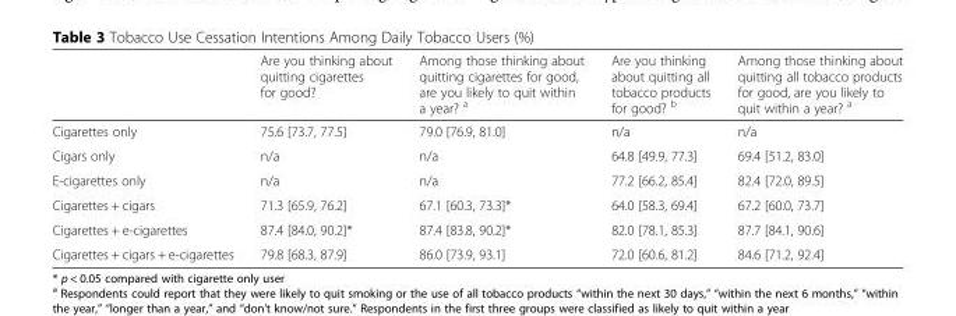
<table><thead><tr><td></td><td>Are you thinking about quitting cigarettes for good?</td><td>Among those thinking about quitting cigarettes for good, are you likely to quit within a year? <sup>a</sup></td><td>Are you thinking about quitting all tobacco products for good? <sup>b</sup></td><td>Among those thinking about quitting all tobacco products for good, are you likely to quit within a year? <sup>a</sup></td></tr></thead><tbody><tr><td>Cigarettes only</td><td>75.6 [73.7, 77.5]</td><td>79.0 [76.9, 81.0]</td><td>n/a</td><td>n/a</td></tr><tr><td>Cigars only</td><td>n/a</td><td>n/a</td><td>64.8 [49.9, 77.3]</td><td>69.4 [51.2, 83.0]</td></tr><tr><td>E-cigarettes only</td><td>n/a</td><td>n/a</td><td>77.2 [66.2, 85.4]</td><td>82.4 [72.0, 89.5]</td></tr><tr><td>Cigarettes + cigars</td><td>71.3 [65.9, 76.2]</td><td>67.1 [60.3, 73.3]*</td><td>64.0 [58.3, 69.4]</td><td>67.2 [60.0, 73.7]</td></tr><tr><td>Cigarettes + e-cigarettes</td><td>87.4 [84.0, 90.2]*</td><td>87.4 [83.8, 90.2]*</td><td>82.0 [78.1, 85.3]</td><td>87.7 [84.1, 90.6]</td></tr><tr><td>Cigarettes + cigars + e-cigarettes</td><td>79.8 [68.3, 87.9]</td><td>86.0 [73.9, 93.1]</td><td>72.0 [60.6, 81.2]</td><td>84.6 [71.2, 92.4]</td></tr></tbody></table>